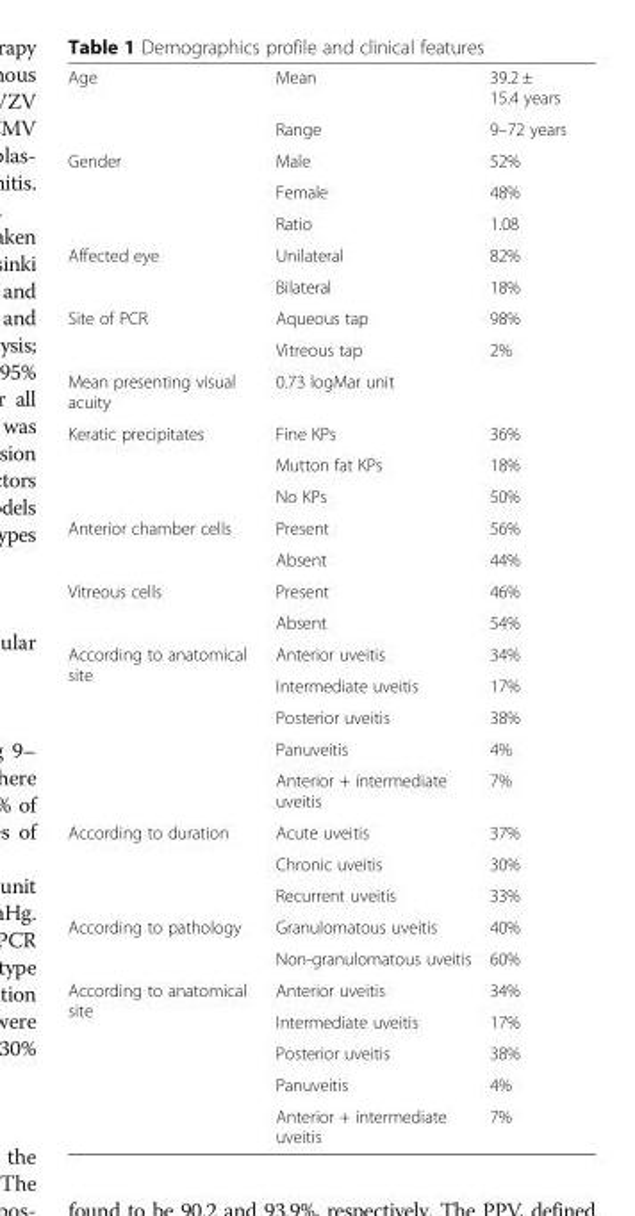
<table><tbody><tr><td rowspan="2">Age</td><td>Mean</td><td>39.2 ± 15.4 years</td></tr><tr><td>Range</td><td>9–72 years</td></tr><tr><td rowspan="3">Gender</td><td>Male</td><td>52%</td></tr><tr><td>Female</td><td>48%</td></tr><tr><td>Ratio</td><td>1.08</td></tr><tr><td rowspan="2">Affected eye</td><td>Unilateral</td><td>82%</td></tr><tr><td>Bilateral</td><td>18%</td></tr><tr><td rowspan="2">Site of PCR</td><td>Aqueous tap</td><td>98%</td></tr><tr><td>Vitreous tap</td><td>2%</td></tr><tr><td>Mean presenting visual acuity</td><td>0.73 logMar unit</td><td></td></tr><tr><td rowspan="3">Keratic precipitates</td><td>Fine KPs</td><td>36%</td></tr><tr><td>Mutton fat KPs</td><td>18%</td></tr><tr><td>No KPs</td><td>50%</td></tr><tr><td rowspan="2">Anterior chamber cells</td><td>Present</td><td>56%</td></tr><tr><td>Absent</td><td>44%</td></tr><tr><td rowspan="2">Vitreous cells</td><td>Present</td><td>46%</td></tr><tr><td>Absent</td><td>54%</td></tr><tr><td rowspan="5">According to anatomical site</td><td>Anterior uveitis</td><td>34%</td></tr><tr><td>Intermediate uveitis</td><td>17%</td></tr><tr><td>Posterior uveitis</td><td>38%</td></tr><tr><td>Panuveitis</td><td>4%</td></tr><tr><td>Anterior + intermediate uveitis</td><td>7%</td></tr><tr><td rowspan="3">According to duration</td><td>Acute uveitis</td><td>37%</td></tr><tr><td>Chronic uveitis</td><td>30%</td></tr><tr><td>Recurrent uveitis</td><td>33%</td></tr><tr><td rowspan="2">According to pathology</td><td>Granulomatous uveitis</td><td>40%</td></tr><tr><td>Non-granulomatous uveitis</td><td>60%</td></tr><tr><td rowspan="5">According to anatomical site</td><td>Anterior uveitis</td><td>34%</td></tr><tr><td>Intermediate uveitis</td><td>17%</td></tr><tr><td>Posterior uveitis</td><td>38%</td></tr><tr><td>Panuveitis</td><td>4%</td></tr><tr><td>Anterior + intermediate uveitis</td><td>7%</td></tr></tbody></table>